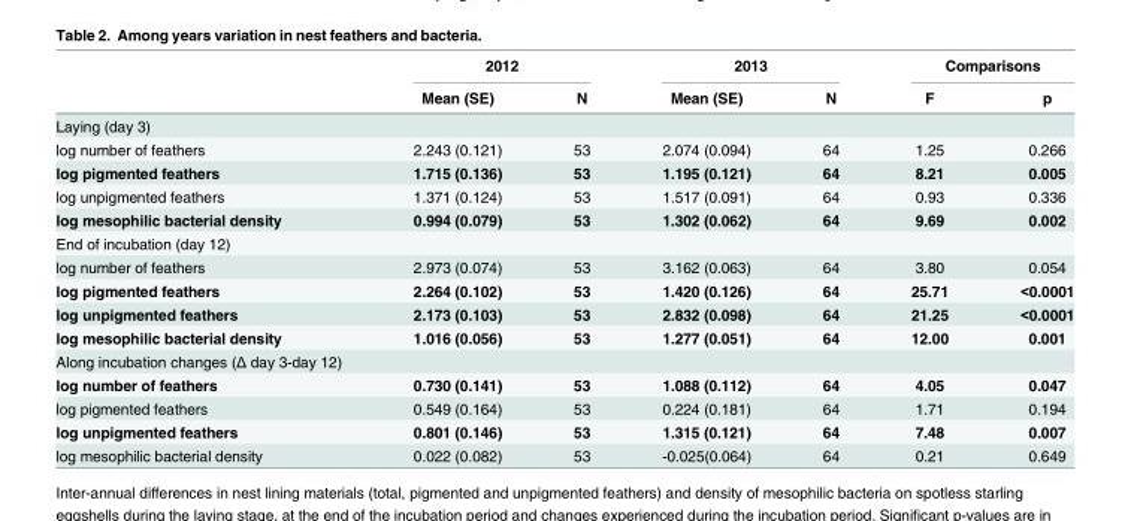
<table><thead><tr><td rowspan="2"></td><td colspan="2">2012</td><td colspan="2">2013</td><td colspan="2">Comparisons</td></tr><tr><td>Mean (SE)</td><td>N</td><td>Mean (SE)</td><td>N</td><td>F</td><td>p</td></tr></thead><tbody><tr><td colspan="7">Laying (day 3)</td></tr><tr><td>log number of feathers</td><td>2.243 (0.121)</td><td>53</td><td>2.074 (0.094)</td><td>64</td><td>1.25</td><td>0.266</td></tr><tr><td>log pigmented feathers</td><td>1.715 (0.136)</td><td>53</td><td>1.195 (0.121)</td><td>64</td><td>8.21</td><td>0.005</td></tr><tr><td>log unpigmented feathers</td><td>1.371 (0.124)</td><td>53</td><td>1.517 (0.091)</td><td>64</td><td>0.93</td><td>0.336</td></tr><tr><td>log mesophilic bacterial density</td><td>0.994 (0.079)</td><td>53</td><td>1.302 (0.062)</td><td>64</td><td>9.69</td><td>0.002</td></tr><tr><td colspan="7">End of incubation (day 12)</td></tr><tr><td>log number of feathers</td><td>2.973 (0.074)</td><td>53</td><td>3.162 (0.063)</td><td>64</td><td>3.80</td><td>0.054</td></tr><tr><td>log pigmented feathers</td><td>2.264 (0.102)</td><td>53</td><td>1.420 (0.126)</td><td>64</td><td>25.71</td><td>&lt;0.0001</td></tr><tr><td>log unpigmented feathers</td><td>2.173 (0.103)</td><td>53</td><td>2.832 (0.098)</td><td>64</td><td>21.25</td><td>&lt;0.0001</td></tr><tr><td>log mesophilic bacterial density</td><td>1.016 (0.056)</td><td>53</td><td>1.277 (0.051)</td><td>64</td><td>12.00</td><td>0.001</td></tr><tr><td colspan="7">Along incubation changes (Δ day 3-day 12)</td></tr><tr><td>log number of feathers</td><td>0.730 (0.141)</td><td>53</td><td>1.088 (0.112)</td><td>64</td><td>4.05</td><td>0.047</td></tr><tr><td>log pigmented feathers</td><td>0.549 (0.164)</td><td>53</td><td>0.224 (0.181)</td><td>64</td><td>1.71</td><td>0.194</td></tr><tr><td>log unpigmented feathers</td><td>0.801 (0.146)</td><td>53</td><td>1.315 (0.121)</td><td>64</td><td>7.48</td><td>0.007</td></tr><tr><td>log mesophilic bacterial density</td><td>0.022 (0.082)</td><td>53</td><td>-0.025(0.064)</td><td>64</td><td>0.21</td><td>0.649</td></tr></tbody></table>